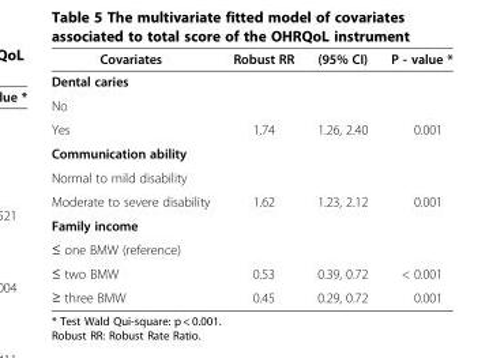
<table><thead><tr><td>Covariates</td><td>Robust RR</td><td>(95% CI)</td><td>P - value *</td></tr></thead><tbody><tr><td colspan="4">Dental caries</td></tr><tr><td colspan="4">No</td></tr><tr><td>Yes</td><td>1.74</td><td>1.26, 2.40</td><td>0.001</td></tr><tr><td colspan="4">Communication ability</td></tr><tr><td colspan="4">Normal to mild disability</td></tr><tr><td>Moderate to severe disability</td><td>1.62</td><td>1.23, 2.12</td><td>0.001</td></tr><tr><td colspan="4">Family income</td></tr><tr><td colspan="4">≤ one BMW (reference)</td></tr><tr><td>≤ two BMW</td><td>0.53</td><td>0.39, 0.72</td><td>&lt; 0.001</td></tr><tr><td>≥ three BMW</td><td>0.45</td><td>0.29, 0.72</td><td>0.001</td></tr></tbody></table>